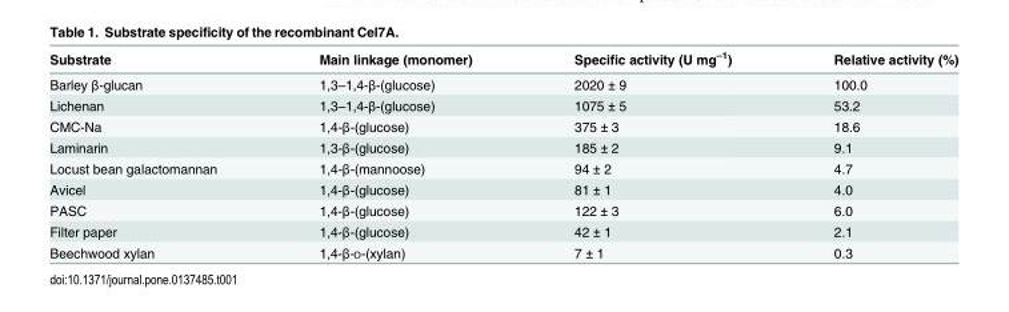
<table><thead><tr><td>Substrate</td><td>Main linkage (monomer)</td><td>Specific activity (U mg<sup>–1</sup>)</td><td>Relative activity (%)</td></tr></thead><tbody><tr><td>Barley β-glucan</td><td>1,3–1,4-β-(glucose)</td><td>2020 ± 9</td><td>100.0</td></tr><tr><td>Lichenan</td><td>1,3–1,4-β-(glucose)</td><td>1075 ± 5</td><td>53.2</td></tr><tr><td>CMC-Na</td><td>1,4-β-(glucose)</td><td>375 ± 3</td><td>18.6</td></tr><tr><td>Laminarin</td><td>1,3-β-(glucose)</td><td>185 ± 2</td><td>9.1</td></tr><tr><td>Locust bean galactomannan</td><td>1,4-β-(mannoose)</td><td>94 ± 2</td><td>4.7</td></tr><tr><td>Avicel</td><td>1,4-β-(glucose)</td><td>81 ± 1</td><td>4.0</td></tr><tr><td>PASC</td><td>1,4-β-(glucose)</td><td>122 ± 3</td><td>6.0</td></tr><tr><td>Filter paper</td><td>1,4-β-(glucose)</td><td>42 ± 1</td><td>2.1</td></tr><tr><td>Beechwood xylan</td><td>1,4-β-D-(xylan)</td><td>7 ± 1</td><td>0.3</td></tr></tbody></table>